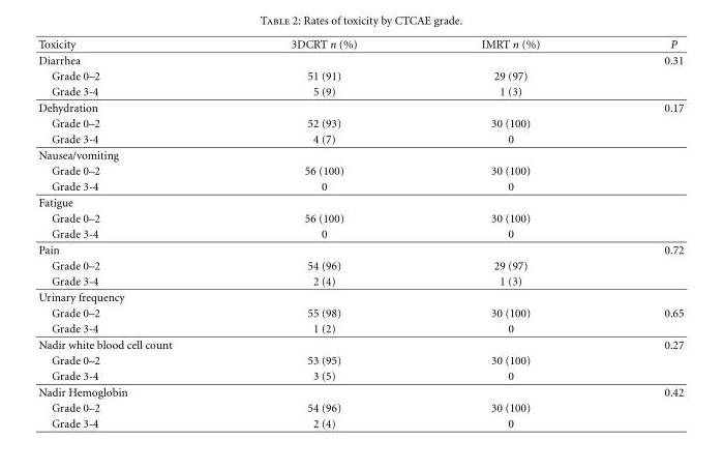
<table><thead><tr><td>Toxicity</td><td>3DCRT n (%)</td><td>IMRT n (%)</td><td>P</td></tr></thead><tbody><tr><td>Diarrhea</td><td></td><td></td><td>0.31</td></tr><tr><td>Grade 0–2</td><td>51 (91)</td><td>29 (97)</td><td></td></tr><tr><td>Grade 3-4</td><td>5 (9)</td><td>1 (3)</td><td></td></tr><tr><td>Dehydration</td><td></td><td></td><td>0.17</td></tr><tr><td>Grade 0–2</td><td>52 (93)</td><td>30 (100)</td><td></td></tr><tr><td>Grade 3-4</td><td>4 (7)</td><td>0</td><td></td></tr><tr><td colspan="4">Nausea/vomiting</td></tr><tr><td>Grade 0–2</td><td>56 (100)</td><td>30 (100)</td><td></td></tr><tr><td>Grade 3-4</td><td>0</td><td>0</td><td></td></tr><tr><td colspan="4">Fatigue</td></tr><tr><td>Grade 0–2</td><td>56 (100)</td><td>30 (100)</td><td></td></tr><tr><td>Grade 3-4</td><td>0</td><td>0</td><td></td></tr><tr><td>Pain</td><td></td><td></td><td>0.72</td></tr><tr><td>Grade 0–2</td><td>54 (96)</td><td>29 (97)</td><td></td></tr><tr><td>Grade 3-4</td><td>2 (4)</td><td>1 (3)</td><td></td></tr><tr><td colspan="4">Urinary frequency</td></tr><tr><td>Grade 0–2</td><td>55 (98)</td><td>30 (100)</td><td>0.65</td></tr><tr><td>Grade 3-4</td><td>1 (2)</td><td>0</td><td></td></tr><tr><td>Nadir white blood cell count</td><td></td><td></td><td>0.27</td></tr><tr><td>Grade 0–2</td><td>53 (95)</td><td>30 (100)</td><td></td></tr><tr><td>Grade 3-4</td><td>3 (5)</td><td>0</td><td></td></tr><tr><td>Nadir Hemoglobin</td><td></td><td></td><td>0.42</td></tr><tr><td>Grade 0–2</td><td>54 (96)</td><td>30 (100)</td><td></td></tr><tr><td>Grade 3-4</td><td>2 (4)</td><td>0</td><td></td></tr></tbody></table>